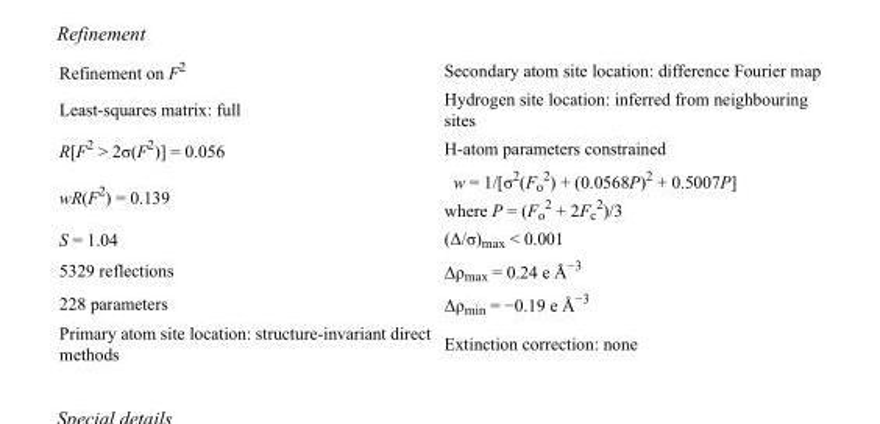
<table><tbody><tr><td>Refinement on F<sup>2</sup></td><td>Secondary atom site location: difference Fourier map</td></tr><tr><td>Least-squares matrix: full</td><td>Hydrogen site location: inferred from neighbouring sites</td></tr><tr><td>R[F<sup>2</sup> &gt; 2σ(F<sup>2</sup>)] = 0.056</td><td>H-atom parameters constrained</td></tr><tr><td>wR(F<sup>2</sup>) = 0.139</td><td>w = 1/[σ<sup>2</sup>(F<sub>o</sub> <sup>2</sup>) + (0.0568P)<sup>2</sup> + 0.5007P] where P = (F<sub>o</sub> <sup>2</sup> + 2F<sub>c</sub> <sup>2</sup>)/3</td></tr><tr><td>S = 1.04</td><td>(Δ/σ)<sub>max</sub> &lt; 0.001</td></tr><tr><td>5329 reflections</td><td>Δρ<sub>max</sub> = 0.24 e Å<sup>−3</sup></td></tr><tr><td>228 parameters</td><td>Δρ<sub>min</sub> = −0.19 e Å<sup>−3</sup></td></tr><tr><td>Primary atom site location: structure-invariant direct methods</td><td>Extinction correction: none</td></tr></tbody></table>